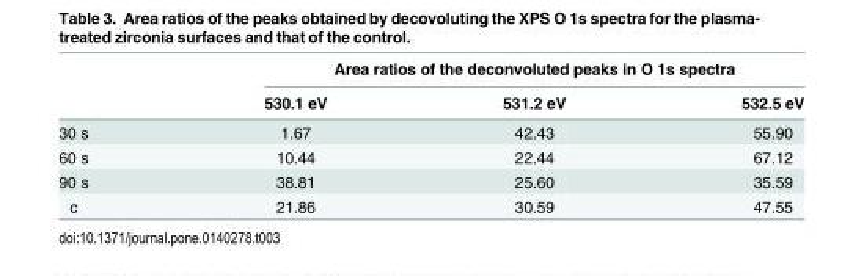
<table><thead><tr><td rowspan="2"></td><td colspan="3">Area ratios of the deconvoluted peaks in O 1s spectra</td></tr><tr><td>530.1 eV</td><td>531.2 eV</td><td>532.5 eV</td></tr></thead><tbody><tr><td>30 s</td><td>1.67</td><td>42.43</td><td>55.90</td></tr><tr><td>60 s</td><td>10.44</td><td>22.44</td><td>67.12</td></tr><tr><td>90 s</td><td>38.81</td><td>25.60</td><td>35.59</td></tr><tr><td>c</td><td>21.86</td><td>30.59</td><td>47.55</td></tr></tbody></table>